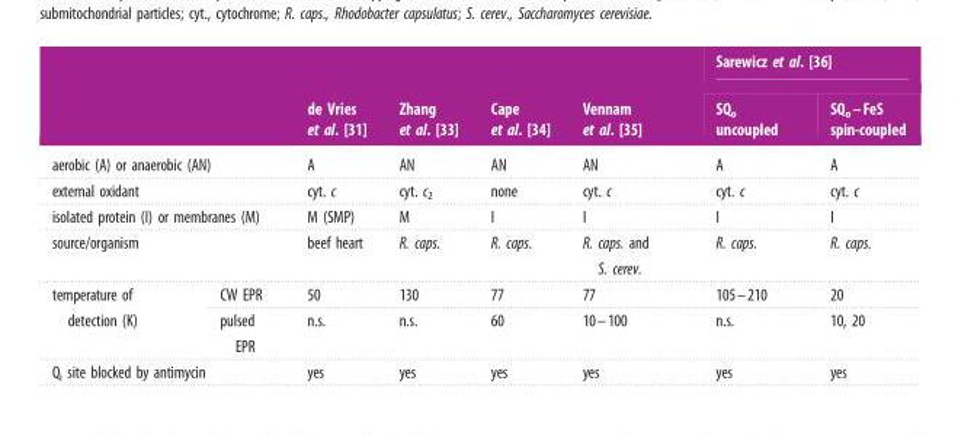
<table><thead><tr><td rowspan="2"></td><td rowspan="2"></td><td rowspan="2">de Vries et al. [31]</td><td rowspan="2">Zhang et al. [33]</td><td rowspan="2">Cape et al. [34]</td><td rowspan="2">Vennam et al. [35]</td><td colspan="2">Sarewicz et al. [36]</td></tr><tr><td>SQ<sub>o</sub> uncoupled</td><td>SQ<sub>o</sub>–FeS spin-coupled</td></tr></thead><tbody><tr><td colspan="2">aerobic (A) or anaerobic (AN)</td><td>A</td><td>AN</td><td>AN</td><td>AN</td><td>A</td><td>A</td></tr><tr><td colspan="2">external oxidant</td><td>cyt. c</td><td>cyt. c<sub>2</sub></td><td>none</td><td>cyt. c</td><td>cyt. c</td><td>cyt. c</td></tr><tr><td colspan="2">isolated protein (I) or membranes (M)</td><td>M (SMP)</td><td>M</td><td>I</td><td>I</td><td>I</td><td>I</td></tr><tr><td colspan="2">source/organism</td><td>beef heart</td><td>R. caps.</td><td>R. caps.</td><td>R. caps. and S. cerev.</td><td>R. caps.</td><td>R. caps.</td></tr><tr><td rowspan="2">temperature of detection (K)</td><td>CW EPR</td><td>50</td><td>130</td><td>77</td><td>77</td><td>105–210</td><td>20</td></tr><tr><td>pulsed EPR</td><td>n.s.</td><td>n.s.</td><td>60</td><td>10–100</td><td>n.s.</td><td>10, 20</td></tr><tr><td colspan="2">Q<sub>i</sub> site blocked by antimycin</td><td>yes</td><td>yes</td><td>yes</td><td>yes</td><td>yes</td><td>yes</td></tr></tbody></table>